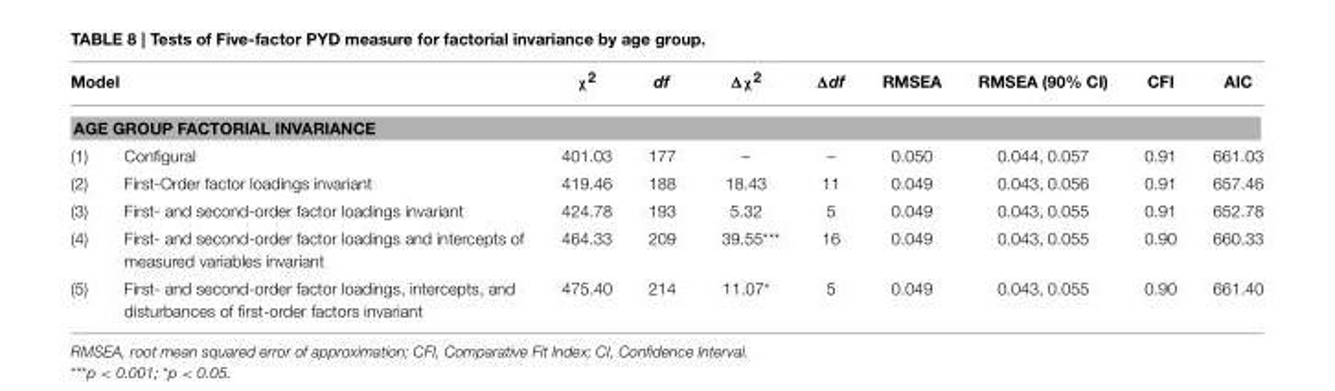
<table><thead><tr><td colspan="2">Model</td><td>χ<sup>2</sup></td><td>df</td><td>Δχ<sup>2</sup></td><td>Δdf</td><td>RMSEA</td><td>RMSEA (90% CI)</td><td>CFI</td><td>AIC</td></tr><tr><td colspan="10">AGE GROUP FACTORIAL INVARIANCE</td></tr><tr><td>(1)</td><td>Configural</td><td>401.03</td><td>177</td><td>–</td><td>–</td><td>0.050</td><td>0.044, 0.057</td><td>0.91</td><td>661.03</td></tr></thead><tbody><tr><td>(2)</td><td>First-Order factor loadings invariant</td><td>419.46</td><td>188</td><td>18.43</td><td>11</td><td>0.049</td><td>0.043, 0.056</td><td>0.91</td><td>657.46</td></tr><tr><td>(3)</td><td>First- and second-order factor loadings invariant</td><td>424.78</td><td>193</td><td>5.32</td><td>5</td><td>0.049</td><td>0.043, 0.055</td><td>0.91</td><td>652.78</td></tr><tr><td>(4)</td><td>First- and second-order factor loadings and intercepts of measured variables invariant</td><td>464.33</td><td>209</td><td>39.55***</td><td>16</td><td>0.049</td><td>0.043, 0.055</td><td>0.90</td><td>660.33</td></tr><tr><td>(5)</td><td>First- and second-order factor loadings, intercepts, and disturbances of first-order factors invariant</td><td>475.40</td><td>214</td><td>11.07*</td><td>5</td><td>0.049</td><td>0.043, 0.055</td><td>0.90</td><td>661.40</td></tr></tbody></table>